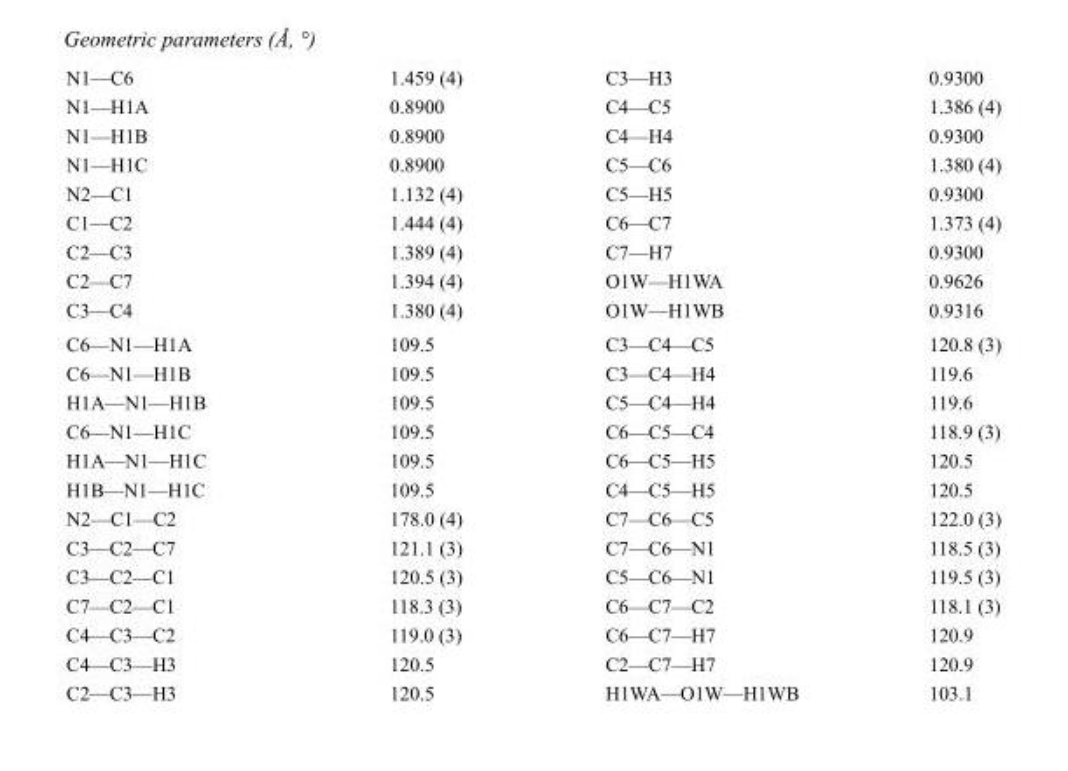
<table><tbody><tr><td>N1—C6</td><td>1.459 (4)</td><td>C3—H3</td><td>0.9300</td></tr><tr><td>N1—H1A</td><td>0.8900</td><td>C4—C5</td><td>1.386 (4)</td></tr><tr><td>N1—H1B</td><td>0.8900</td><td>C4—H4</td><td>0.9300</td></tr><tr><td>N1—H1C</td><td>0.8900</td><td>C5—C6</td><td>1.380 (4)</td></tr><tr><td>N2—C1</td><td>1.132 (4)</td><td>C5—H5</td><td>0.9300</td></tr><tr><td>C1—C2</td><td>1.444 (4)</td><td>C6—C7</td><td>1.373 (4)</td></tr><tr><td>C2—C3</td><td>1.389 (4)</td><td>C7—H7</td><td>0.9300</td></tr><tr><td>C2—C7</td><td>1.394 (4)</td><td>O1W—H1WA</td><td>0.9626</td></tr><tr><td>C3—C4</td><td>1.380 (4)</td><td>O1W—H1WB</td><td>0.9316</td></tr><tr><td>C6—N1—H1A</td><td>109.5</td><td>C3—C4—C5</td><td>120.8 (3)</td></tr><tr><td>C6—N1—H1B</td><td>109.5</td><td>C3—C4—H4</td><td>119.6</td></tr><tr><td>H1A—N1—H1B</td><td>109.5</td><td>C5—C4—H4</td><td>119.6</td></tr><tr><td>C6—N1—H1C</td><td>109.5</td><td>C6—C5—C4</td><td>118.9 (3)</td></tr><tr><td>H1A—N1—H1C</td><td>109.5</td><td>C6—C5—H5</td><td>120.5</td></tr><tr><td>H1B—N1—H1C</td><td>109.5</td><td>C4—C5—H5</td><td>120.5</td></tr><tr><td>N2—C1—C2</td><td>178.0 (4)</td><td>C7—C6—C5</td><td>122.0 (3)</td></tr><tr><td>C3—C2—C7</td><td>121.1 (3)</td><td>C7—C6—N1</td><td>118.5 (3)</td></tr><tr><td>C3—C2—C1</td><td>120.5 (3)</td><td>C5—C6—N1</td><td>119.5 (3)</td></tr><tr><td>C7—C2—C1</td><td>118.3 (3)</td><td>C6—C7—C2</td><td>118.1 (3)</td></tr><tr><td>C4—C3—C2</td><td>119.0 (3)</td><td>C6—C7—H7</td><td>120.9</td></tr><tr><td>C4—C3—H3</td><td>120.5</td><td>C2—C7—H7</td><td>120.9</td></tr><tr><td>C2—C3—H3</td><td>120.5</td><td>H1WA—O1W—H1WB</td><td>103.1</td></tr></tbody></table>